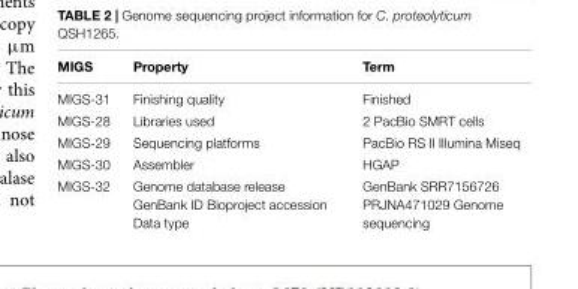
<table><thead><tr><td>MIGS</td><td>Property</td><td>Term</td></tr></thead><tbody><tr><td>MIGS-31</td><td>Finishing quality</td><td>Finished</td></tr><tr><td>MIGS-28</td><td>Libraries used</td><td>2 PacBio SMRT cells</td></tr><tr><td>MIGS-29</td><td>Sequencing platforms</td><td>PacBio RS II Illumina Miseq</td></tr><tr><td>MIGS-30</td><td>Assembler</td><td>HGAP</td></tr><tr><td>MIGS-32</td><td>Genome database release GenBank ID Bioproject accession Data type</td><td>GenBank SRR7156726 PRJNA471029 Genome sequencing</td></tr></tbody></table>